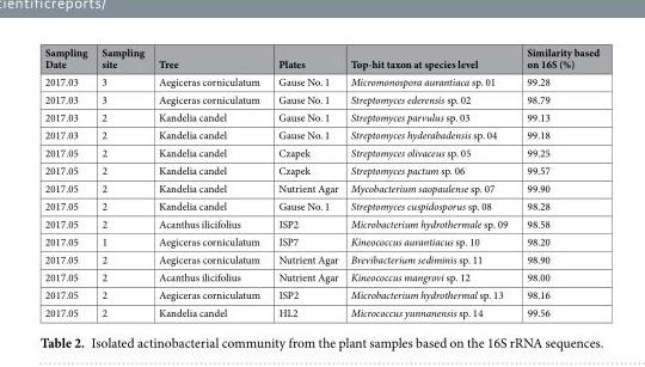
<table><thead><tr><td>Sampling Date</td><td>Sampling site</td><td>Tree</td><td>Plates</td><td>Top-hit taxon at species level</td><td>Similarity based on 16S (%)</td></tr></thead><tbody><tr><td>2017.03</td><td>3</td><td>Aegiceras corniculatum</td><td>Gause No. 1</td><td>Micromonospora aurantiaca sp. 01</td><td>99.28</td></tr><tr><td>2017.03</td><td>3</td><td>Aegiceras corniculatum</td><td>Gause No. 1</td><td>Streptomyces ederensis sp. 02</td><td>98.79</td></tr><tr><td>2017.03</td><td>2</td><td>Kandelia candel</td><td>Gause No. 1</td><td>Streptomyces parvulus sp. 03</td><td>99.13</td></tr><tr><td>2017.03</td><td>2</td><td>Kandelia candel</td><td>Gause No. 1</td><td>Streptomyces hyderabadensis sp. 04</td><td>99.18</td></tr><tr><td>2017.05</td><td>2</td><td>Kandelia candel</td><td>Czapek</td><td>Streptomyces olivaceus sp. 05</td><td>99.25</td></tr><tr><td>2017.05</td><td>2</td><td>Kandelia candel</td><td>Czapek</td><td>Streptomyces pactum sp. 06</td><td>99.57</td></tr><tr><td>2017.05</td><td>2</td><td>Kandelia candel</td><td>Nutrient Agar</td><td>Mycobacterium saopaulense sp. 07</td><td>99.90</td></tr><tr><td>2017.05</td><td>2</td><td>Kandelia candel</td><td>Gause No. 1</td><td>Streptomyces cuspidosporus sp. 08</td><td>98.28</td></tr><tr><td>2017.05</td><td>2</td><td>Acanthus ilicifolius</td><td>ISP2</td><td>Microbacterium hydrothermale sp. 09</td><td>98.58</td></tr><tr><td>2017.05</td><td>1</td><td>Aegiceras corniculatum</td><td>ISP7</td><td>Kineococcus aurantiacus sp. 10</td><td>98.20</td></tr><tr><td>2017.05</td><td>2</td><td>Aegiceras corniculatum</td><td>Nutrient Agar</td><td>Brevibacterium sediminis sp. 11</td><td>98.90</td></tr><tr><td>2017.05</td><td>2</td><td>Acanthus ilicifolius</td><td>Nutrient Agar</td><td>Kineococcus mangrovi sp. 12</td><td>98.00</td></tr><tr><td>2017.05</td><td>2</td><td>Aegiceras corniculatum</td><td>ISP2</td><td>Microbacterium hydrothermal sp. 13</td><td>98.16</td></tr><tr><td>2017.05</td><td>2</td><td>Kandelia candel</td><td>HL2</td><td>Micrococcus yunnanensis sp. 14</td><td>99.56</td></tr></tbody></table>